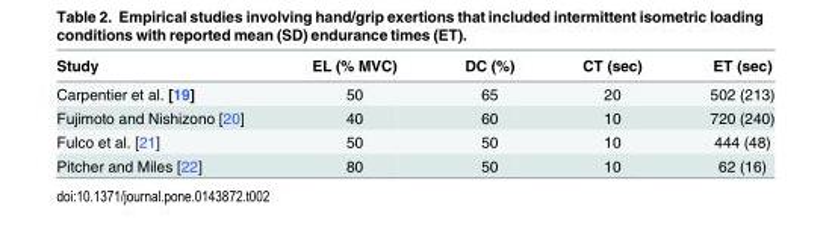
<table><thead><tr><td>Study</td><td>EL (% MVC)</td><td>DC (%)</td><td>CT (sec)</td><td>ET (sec)</td></tr></thead><tbody><tr><td>Carpentier et al. [19]</td><td>50</td><td>65</td><td>20</td><td>502 (213)</td></tr><tr><td>Fujimoto and Nishizono [20]</td><td>40</td><td>60</td><td>10</td><td>720 (240)</td></tr><tr><td>Fulco et al. [21]</td><td>50</td><td>50</td><td>10</td><td>444 (48)</td></tr><tr><td>Pitcher and Miles [22]</td><td>80</td><td>50</td><td>10</td><td>62 (16)</td></tr></tbody></table>